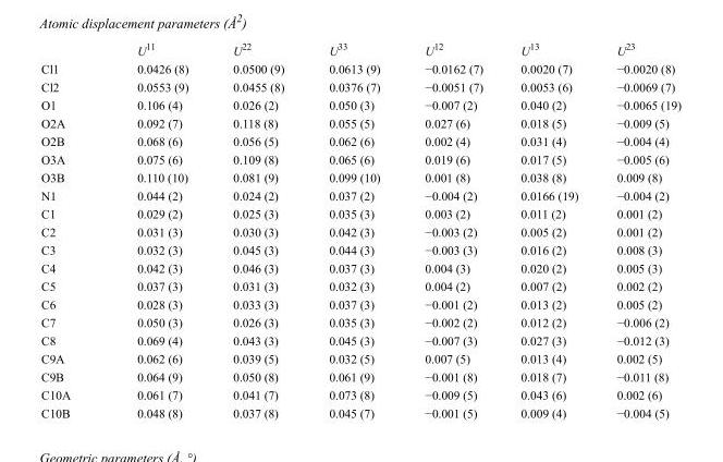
<table><thead><tr><td></td><td>U<sup>11</sup></td><td>U<sup>22</sup></td><td>U<sup>33</sup></td><td>U<sup>12</sup></td><td>U<sup>13</sup></td><td>U<sup>23</sup></td></tr></thead><tbody><tr><td>Cl1</td><td>0.0426 (8)</td><td>0.0500 (9)</td><td>0.0613 (9)</td><td>−0.0162 (7)</td><td>0.0020 (7)</td><td>−0.0020 (8)</td></tr><tr><td>Cl2</td><td>0.0553 (9)</td><td>0.0455 (8)</td><td>0.0376 (7)</td><td>−0.0051 (7)</td><td>0.0053 (6)</td><td>−0.0069 (7)</td></tr><tr><td>O1</td><td>0.106 (4)</td><td>0.026 (2)</td><td>0.050 (3)</td><td>−0.007 (2)</td><td>0.040 (2)</td><td>−0.0065 (19)</td></tr><tr><td>O2A</td><td>0.092 (7)</td><td>0.118 (8)</td><td>0.055 (5)</td><td>0.027 (6)</td><td>0.018 (5)</td><td>−0.009 (5)</td></tr><tr><td>O2B</td><td>0.068 (6)</td><td>0.056 (5)</td><td>0.062 (6)</td><td>0.002 (4)</td><td>0.031 (4)</td><td>−0.004 (4)</td></tr><tr><td>O3A</td><td>0.075 (6)</td><td>0.109 (8)</td><td>0.065 (6)</td><td>0.019 (6)</td><td>0.017 (5)</td><td>−0.005 (6)</td></tr><tr><td>O3B</td><td>0.110 (10)</td><td>0.081 (9)</td><td>0.099 (10)</td><td>0.001 (8)</td><td>0.038 (8)</td><td>0.009 (8)</td></tr><tr><td>N1</td><td>0.044 (2)</td><td>0.024 (2)</td><td>0.037 (2)</td><td>−0.004 (2)</td><td>0.0166 (19)</td><td>−0.004 (2)</td></tr><tr><td>C1</td><td>0.029 (2)</td><td>0.025 (3)</td><td>0.035 (3)</td><td>0.003 (2)</td><td>0.011 (2)</td><td>0.001 (2)</td></tr><tr><td>C2</td><td>0.031 (3)</td><td>0.030 (3)</td><td>0.042 (3)</td><td>−0.003 (2)</td><td>0.005 (2)</td><td>0.001 (2)</td></tr><tr><td>C3</td><td>0.032 (3)</td><td>0.045 (3)</td><td>0.044 (3)</td><td>−0.003 (3)</td><td>0.016 (2)</td><td>0.008 (3)</td></tr><tr><td>C4</td><td>0.042 (3)</td><td>0.046 (3)</td><td>0.037 (3)</td><td>0.004 (3)</td><td>0.020 (2)</td><td>0.005 (3)</td></tr><tr><td>C5</td><td>0.037 (3)</td><td>0.031 (3)</td><td>0.032 (3)</td><td>0.004 (2)</td><td>0.007 (2)</td><td>0.002 (2)</td></tr><tr><td>C6</td><td>0.028 (3)</td><td>0.033 (3)</td><td>0.037 (3)</td><td>−0.001 (2)</td><td>0.013 (2)</td><td>0.005 (2)</td></tr><tr><td>C7</td><td>0.050 (3)</td><td>0.026 (3)</td><td>0.035 (3)</td><td>−0.002 (2)</td><td>0.012 (2)</td><td>−0.006 (2)</td></tr><tr><td>C8</td><td>0.069 (4)</td><td>0.043 (3)</td><td>0.045 (3)</td><td>−0.007 (3)</td><td>0.027 (3)</td><td>−0.012 (3)</td></tr><tr><td>C9A</td><td>0.062 (6)</td><td>0.039 (5)</td><td>0.032 (5)</td><td>0.007 (5)</td><td>0.013 (4)</td><td>0.002 (5)</td></tr><tr><td>C9B</td><td>0.064 (9)</td><td>0.050 (8)</td><td>0.061 (9)</td><td>−0.001 (8)</td><td>0.018 (7)</td><td>−0.011 (8)</td></tr><tr><td>C10A</td><td>0.061 (7)</td><td>0.041 (7)</td><td>0.073 (8)</td><td>−0.009 (5)</td><td>0.043 (6)</td><td>0.002 (6)</td></tr><tr><td>C10B</td><td>0.048 (8)</td><td>0.037 (8)</td><td>0.045 (7)</td><td>−0.001 (5)</td><td>0.009 (4)</td><td>−0.004 (5)</td></tr></tbody></table>